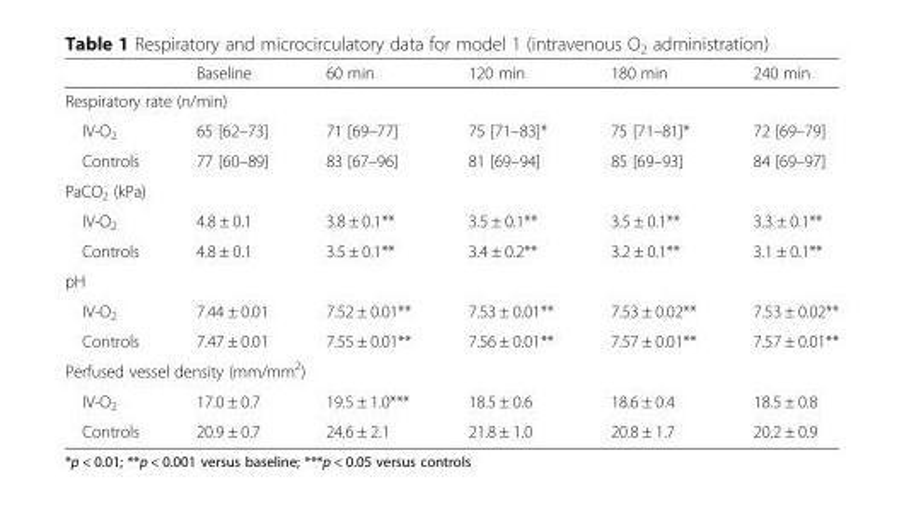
<table><thead><tr><td></td><td>Baseline</td><td>60 min</td><td>120 min</td><td>180 min</td><td>240 min</td></tr></thead><tbody><tr><td colspan="6">Respiratory rate (n/min)</td></tr><tr><td>IV-O<sub>2</sub></td><td>65 [62–73]</td><td>71 [69–77]</td><td>75 [71–83]*</td><td>75 [71–81]*</td><td>72 [69–79]</td></tr><tr><td>Controls</td><td>77 [60–89]</td><td>83 [67–96]</td><td>81 [69–94]</td><td>85 [69–93]</td><td>84 [69–97]</td></tr><tr><td colspan="6">PaCO<sub>2</sub> (kPa)</td></tr><tr><td>IV-O<sub>2</sub></td><td>4.8 ± 0.1</td><td>3.8 ± 0.1**</td><td>3.5 ± 0.1**</td><td>3.5 ± 0.1**</td><td>3.3 ± 0.1**</td></tr><tr><td>Controls</td><td>4.8 ± 0.1</td><td>3.5 ± 0.1**</td><td>3.4 ± 0.2**</td><td>3.2 ± 0.1**</td><td>3.1 ± 0.1**</td></tr><tr><td colspan="6">pH</td></tr><tr><td>IV-O<sub>2</sub></td><td>7.44 ± 0.01</td><td>7.52 ± 0.01**</td><td>7.53 ± 0.01**</td><td>7.53 ± 0.02**</td><td>7.53 ± 0.02**</td></tr><tr><td>Controls</td><td>7.47 ± 0.01</td><td>7.55 ± 0.01**</td><td>7.56 ± 0.01**</td><td>7.57 ± 0.01**</td><td>7.57 ± 0.01**</td></tr><tr><td colspan="6">Perfused vessel density (mm/mm<sup>2</sup>)</td></tr><tr><td>IV-O<sub>2</sub></td><td>17.0 ± 0.7</td><td>19.5 ± 1.0***</td><td>18.5 ± 0.6</td><td>18.6 ± 0.4</td><td>18.5 ± 0.8</td></tr><tr><td>Controls</td><td>20.9 ± 0.7</td><td>24.6 ± 2.1</td><td>21.8 ± 1.0</td><td>20.8 ± 1.7</td><td>20.2 ± 0.9</td></tr></tbody></table>